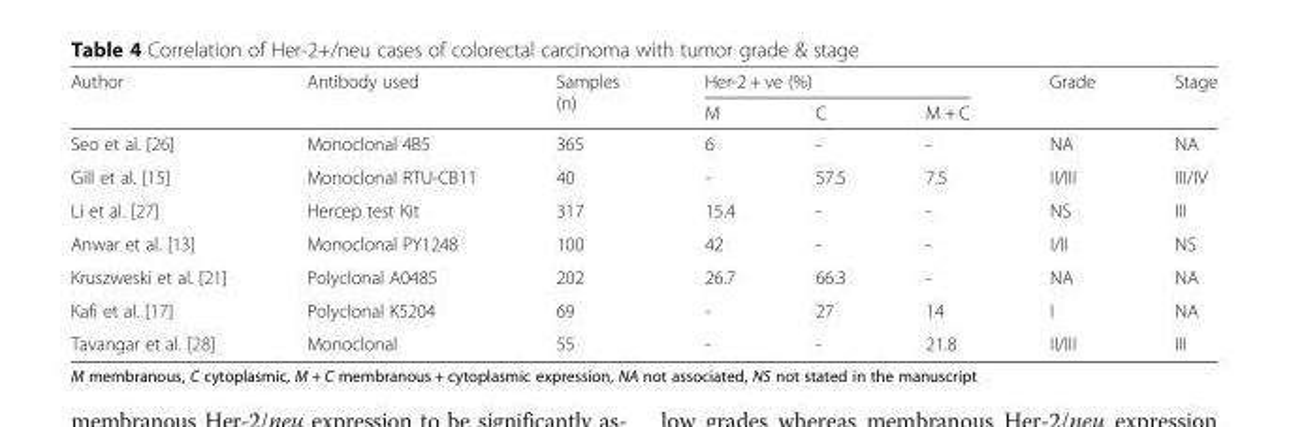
<table><thead><tr><td rowspan="2">Author</td><td rowspan="2">Antibody used</td><td rowspan="2">Samples (n)</td><td colspan="3">Her-2 + ve (%)</td><td rowspan="2">Grade</td><td rowspan="2">Stage</td></tr><tr><td>M</td><td>C</td><td>M + C</td></tr></thead><tbody><tr><td>Seo et al. [26]</td><td>Monoclonal 4B5</td><td>365</td><td>6</td><td>-</td><td>-</td><td>NA</td><td>NA</td></tr><tr><td>Gill et al. [15]</td><td>Monoclonal RTU-CB11</td><td>40</td><td>-</td><td>57.5</td><td>7.5</td><td>II/III</td><td>III/IV</td></tr><tr><td>Li et al. [27]</td><td>Hercep test Kit</td><td>317</td><td>15.4</td><td>-</td><td>-</td><td>NS</td><td>III</td></tr><tr><td>Anwar et al. [13]</td><td>Monoclonal PY1248</td><td>100</td><td>42</td><td>-</td><td>-</td><td>I/II</td><td>NS</td></tr><tr><td>Kruszweski et al. [21]</td><td>Polyclonal A0485</td><td>202</td><td>26.7</td><td>66.3</td><td>-</td><td>NA</td><td>NA</td></tr><tr><td>Kafi et al. [17]</td><td>Polyclonal K5204</td><td>69</td><td>-</td><td>27</td><td>14</td><td>I</td><td>NA</td></tr><tr><td>Tavangar et al. [28]</td><td>Monoclonal</td><td>55</td><td>-</td><td>-</td><td>21.8</td><td>II/III</td><td>III</td></tr></tbody></table>